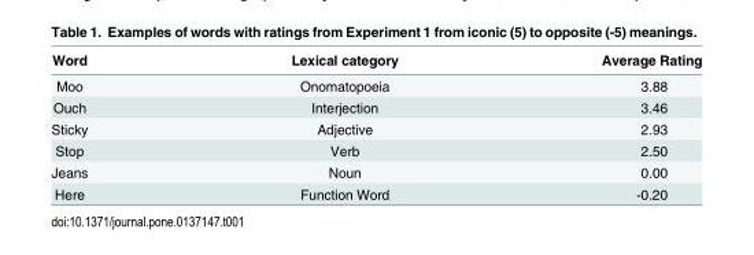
<table><thead><tr><td>Word</td><td>Lexical category</td><td>Average Rating</td></tr></thead><tbody><tr><td>Moo</td><td>Onomatopoeia</td><td>3.88</td></tr><tr><td>Ouch</td><td>Interjection</td><td>3.46</td></tr><tr><td>Sticky</td><td>Adjective</td><td>2.93</td></tr><tr><td>Stop</td><td>Verb</td><td>2.50</td></tr><tr><td>Jeans</td><td>Noun</td><td>0.00</td></tr><tr><td>Here</td><td>Function Word</td><td>-0.20</td></tr></tbody></table>